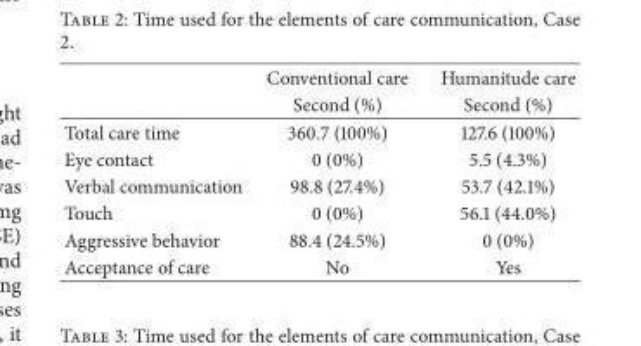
<table><thead><tr><td rowspan="2"></td><td rowspan="2">Conventional care Second (%)</td><td rowspan="2">Humanitude care Second (%)</td></tr><tr></tr></thead><tbody><tr><td>Total care time</td><td>360.7 (100%)</td><td>127.6 (100%)</td></tr><tr><td>Eye contact</td><td>0 (0%)</td><td>5.5 (4.3%)</td></tr><tr><td>Verbal communication</td><td>98.8 (27.4%)</td><td>53.7 (42.1%)</td></tr><tr><td>Touch</td><td>0 (0%)</td><td>56.1 (44.0%)</td></tr><tr><td>Aggressive behavior</td><td>88.4 (24.5%)</td><td>0 (0%)</td></tr><tr><td>Acceptance of care</td><td>No</td><td>Yes</td></tr></tbody></table>